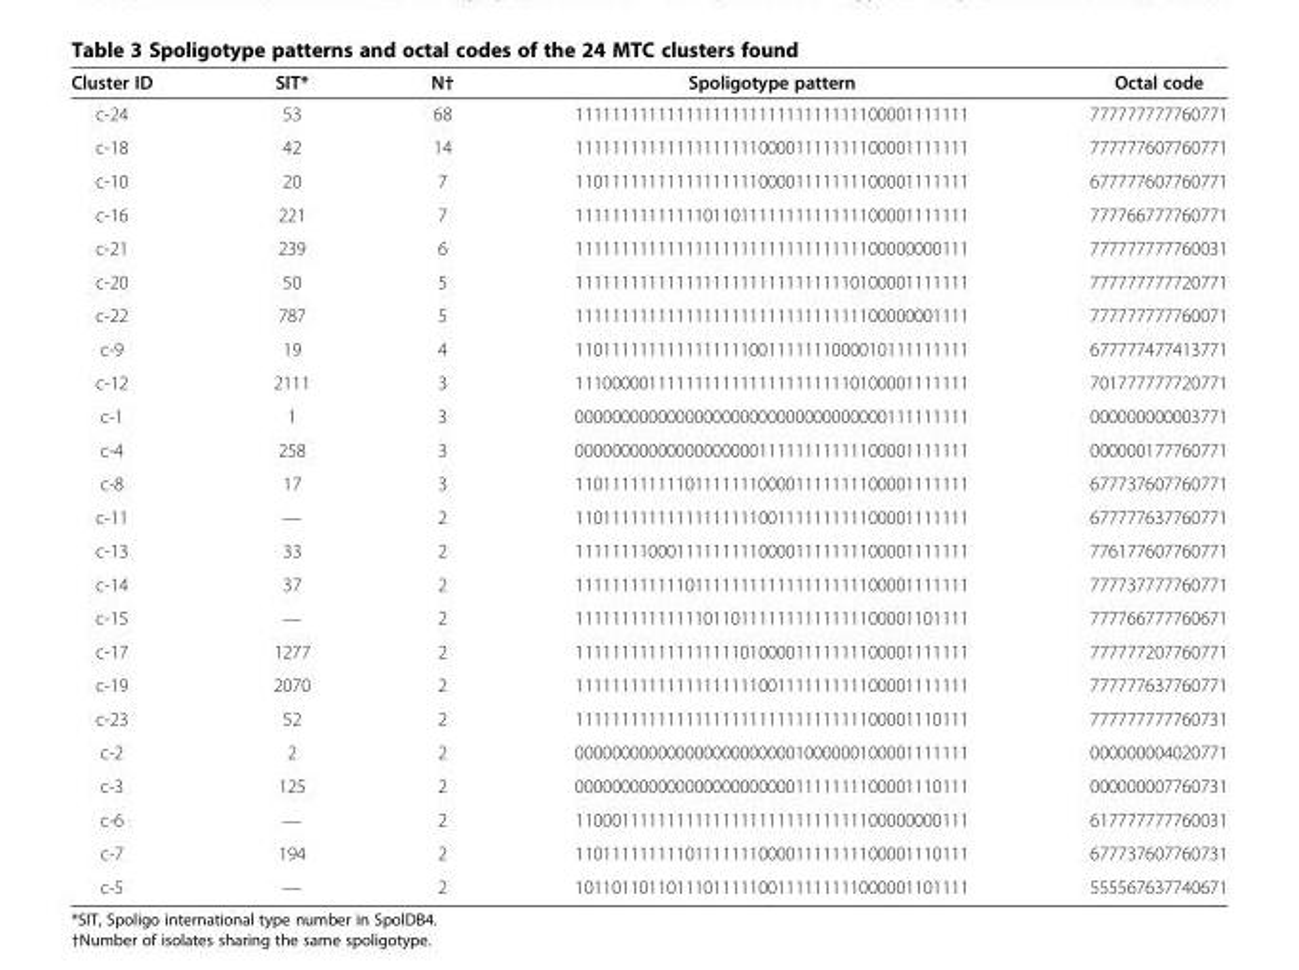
<table><thead><tr><td>Cluster ID</td><td>SIT*</td><td>N†</td><td>Spoligotype pattern</td><td>Octal code</td></tr></thead><tbody><tr><td>c-24</td><td>53</td><td>68</td><td>1111111111111111111111111111111100001111111</td><td>777777777760771</td></tr><tr><td>c-18</td><td>42</td><td>14</td><td>1111111111111111111100001111111100001111111</td><td>777777607760771</td></tr><tr><td>c-10</td><td>20</td><td>7</td><td>1101111111111111111100001111111100001111111</td><td>677777607760771</td></tr><tr><td>c-16</td><td>221</td><td>7</td><td>1111111111111101101111111111111100001111111</td><td>777766777760771</td></tr><tr><td>c-21</td><td>239</td><td>6</td><td>1111111111111111111111111111111100000000111</td><td>777777777760031</td></tr><tr><td>c-20</td><td>50</td><td>5</td><td>1111111111111111111111111111110100001111111</td><td>777777777720771</td></tr><tr><td>c-22</td><td>787</td><td>5</td><td>1111111111111111111111111111111100000001111</td><td>777777777760071</td></tr><tr><td>c-9</td><td>19</td><td>4</td><td>1101111111111111111001111111000010111111111</td><td>677777477413771</td></tr><tr><td>c-12</td><td>2111</td><td>3</td><td>1110000011111111111111111111110100001111111</td><td>701777777720771</td></tr><tr><td>c-1</td><td>1</td><td>3</td><td>0000000000000000000000000000000000111111111</td><td>000000000003771</td></tr><tr><td>c-4</td><td>258</td><td>3</td><td>0000000000000000000011111111111100001111111</td><td>000000177760771</td></tr><tr><td>c-8</td><td>17</td><td>3</td><td>1101111111110111111100001111111100001111111</td><td>677737607760771</td></tr><tr><td>c-11</td><td>—</td><td>2</td><td>1101111111111111111100111111111100001111111</td><td>677777637760771</td></tr><tr><td>c-13</td><td>33</td><td>2</td><td>1111111100011111111100001111111100001111111</td><td>776177607760771</td></tr><tr><td>c-14</td><td>37</td><td>2</td><td>1111111111110111111111111111111100001111111</td><td>777737777760771</td></tr><tr><td>c-15</td><td>—</td><td>2</td><td>1111111111111101101111111111111100001101111</td><td>777766777760671</td></tr><tr><td>c-17</td><td>1277</td><td>2</td><td>1111111111111111110100001111111100001111111</td><td>777777207760771</td></tr><tr><td>c-19</td><td>2070</td><td>2</td><td>1111111111111111111100111111111100001111111</td><td>777777637760771</td></tr><tr><td>c-23</td><td>52</td><td>2</td><td>1111111111111111111111111111111100001110111</td><td>777777777760731</td></tr><tr><td>c-2</td><td>2</td><td>2</td><td>0000000000000000000000001000000100001111111</td><td>000000004020771</td></tr><tr><td>c-3</td><td>125</td><td>2</td><td>0000000000000000000000001111111100001110111</td><td>000000007760731</td></tr><tr><td>c-6</td><td>—</td><td>2</td><td>1100011111111111111111111111111100000000111</td><td>617777777760031</td></tr><tr><td>c-7</td><td>194</td><td>2</td><td>1101111111110111111100001111111100001110111</td><td>677737607760731</td></tr><tr><td>c-5</td><td>—</td><td>2</td><td>1011011011011101111100111111111000001101111</td><td>555567637740671</td></tr></tbody></table>